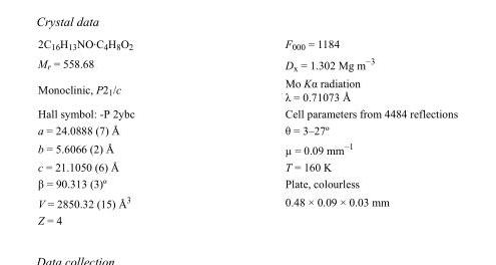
<table><tbody><tr><td>2C<sub>16</sub>H<sub>13</sub>NO·C<sub>4</sub>H<sub>8</sub>O<sub>2</sub></td><td>F<sub>000</sub> = 1184</td></tr><tr><td>M<sub>r</sub> = 558.68</td><td>D<sub>x</sub> = 1.302 Mg m<sup>−3</sup></td></tr><tr><td>Monoclinic, P2<sub>1</sub>/c</td><td>Mo Kα radiation λ = 0.71073 Å</td></tr><tr><td>Hall symbol: -P 2ybc</td><td>Cell parameters from 4484 reflections</td></tr><tr><td>a = 24.0888 (7) Å</td><td>θ = 3–27º</td></tr><tr><td>b = 5.6066 (2) Å</td><td>µ = 0.09 mm<sup>−1</sup></td></tr><tr><td>c = 21.1050 (6) Å</td><td>T = 160 K</td></tr><tr><td>β = 90.313 (3)º</td><td>Plate, colourless</td></tr><tr><td>V = 2850.32 (15) Å<sup>3</sup></td><td>0.48 × 0.09 × 0.03 mm</td></tr><tr><td>Z = 4</td><td></td></tr></tbody></table>